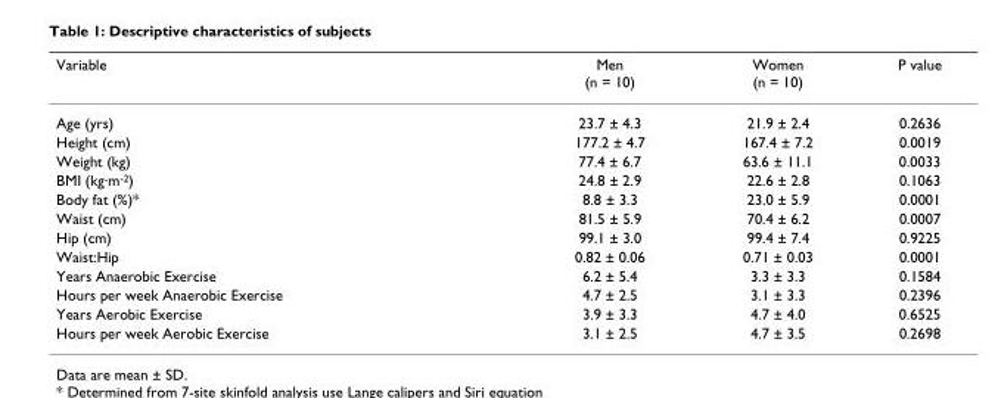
<table><thead><tr><td>Variable</td><td>Men (n = 10)</td><td>Women (n = 10)</td><td>P value</td></tr></thead><tbody><tr><td>Age (yrs)</td><td>23.7 ± 4.3</td><td>21.9 ± 2.4</td><td>0.2636</td></tr><tr><td>Height (cm)</td><td>177.2 ± 4.7</td><td>167.4 ± 7.2</td><td>0.0019</td></tr><tr><td>Weight (kg)</td><td>77.4 ± 6.7</td><td>63.6 ± 11.1</td><td>0.0033</td></tr><tr><td>BMI (kg·m<sup>-2</sup>)</td><td>24.8 ± 2.9</td><td>22.6 ± 2.8</td><td>0.1063</td></tr><tr><td>Body fat (%)*</td><td>8.8 ± 3.3</td><td>23.0 ± 5.9</td><td>0.0001</td></tr><tr><td>Waist (cm)</td><td>81.5 ± 5.9</td><td>70.4 ± 6.2</td><td>0.0007</td></tr><tr><td>Hip (cm)</td><td>99.1 ± 3.0</td><td>99.4 ± 7.4</td><td>0.9225</td></tr><tr><td>Waist:Hip</td><td>0.82 ± 0.06</td><td>0.71 ± 0.03</td><td>0.0001</td></tr><tr><td>Years Anaerobic Exercise</td><td>6.2 ± 5.4</td><td>3.3 ± 3.3</td><td>0.1584</td></tr><tr><td>Hours per week Anaerobic Exercise</td><td>4.7 ± 2.5</td><td>3.1 ± 3.3</td><td>0.2396</td></tr><tr><td>Years Aerobic Exercise</td><td>3.9 ± 3.3</td><td>4.7 ± 4.0</td><td>0.6525</td></tr><tr><td>Hours per week Aerobic Exercise</td><td>3.1 ± 2.5</td><td>4.7 ± 3.5</td><td>0.2698</td></tr></tbody></table>